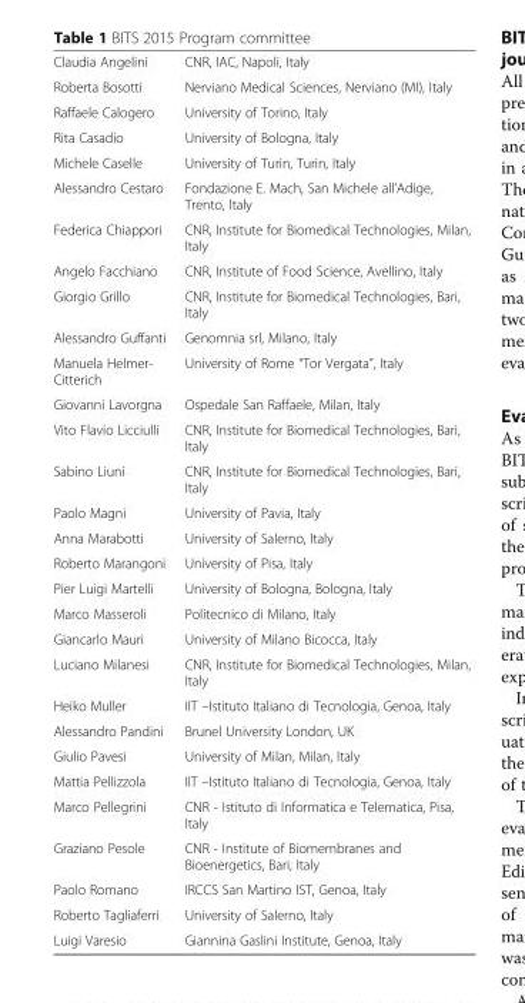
<table><tbody><tr><td>Claudia Angelini</td><td>CNR, IAC, Napoli, Italy</td></tr><tr><td>Roberta Bosotti</td><td>Nerviano Medical Sciences, Nerviano (MI), Italy</td></tr><tr><td>Raffaele Calogero</td><td>University of Torino, Italy</td></tr><tr><td>Rita Casadio</td><td>University of Bologna, Italy</td></tr><tr><td>Michele Caselle</td><td>University of Turin, Turin, Italy</td></tr><tr><td>Alessandro Cestaro</td><td>Fondazione E. Mach, San Michele all’Adige, Trento, Italy</td></tr><tr><td>Federica Chiappori</td><td>CNR, Institute for Biomedical Technologies, Milan, Italy</td></tr><tr><td>Angelo Facchiano</td><td>CNR, Institute of Food Science, Avellino, Italy</td></tr><tr><td>Giorgio Grillo</td><td>CNR, Institute for Biomedical Technologies, Bari, Italy</td></tr><tr><td>Alessandro Guffanti</td><td>Genomnia srl, Milano, Italy</td></tr><tr><td>Manuela Helmer- Citterich</td><td>University of Rome “Tor Vergata”, Italy</td></tr><tr><td>Giovanni Lavorgna</td><td>Ospedale San Raffaele, Milan, Italy</td></tr><tr><td>Vito Flavio Licciulli</td><td>CNR, Institute for Biomedical Technologies, Bari, Italy</td></tr><tr><td>Sabino Liuni</td><td>CNR, Institute for Biomedical Technologies, Bari, Italy</td></tr><tr><td>Paolo Magni</td><td>University of Pavia, Italy</td></tr><tr><td>Anna Marabotti</td><td>University of Salerno, Italy</td></tr><tr><td>Roberto Marangoni</td><td>University of Pisa, Italy</td></tr><tr><td>Pier Luigi Martelli</td><td>University of Bologna, Bologna, Italy</td></tr><tr><td>Marco Masseroli</td><td>Politecnico di Milano, Italy</td></tr><tr><td>Giancarlo Mauri</td><td>University of Milano Bicocca, Italy</td></tr><tr><td>Luciano Milanesi</td><td>CNR, Institute for Biomedical Technologies, Milan, Italy</td></tr><tr><td>Heiko Muller</td><td>IIT –Istituto Italiano di Tecnologia, Genoa, Italy</td></tr><tr><td>Alessandro Pandini</td><td>Brunel University London, UK</td></tr><tr><td>Giulio Pavesi</td><td>University of Milan, Milan, Italy</td></tr><tr><td>Mattia Pellizzola</td><td>IIT –Istituto Italiano di Tecnologia, Genoa, Italy</td></tr><tr><td>Marco Pellegrini</td><td>CNR - Istituto di Informatica e Telematica, Pisa, Italy</td></tr><tr><td>Graziano Pesole</td><td>CNR - Institute of Biomembranes and Bioenergetics, Bari, Italy</td></tr><tr><td>Paolo Romano</td><td>IRCCS San Martino IST, Genoa, Italy</td></tr><tr><td>Roberto Tagliaferri</td><td>University of Salerno, Italy</td></tr><tr><td>Luigi Varesio</td><td>Giannina Gaslini Institute, Genoa, Italy</td></tr></tbody></table>